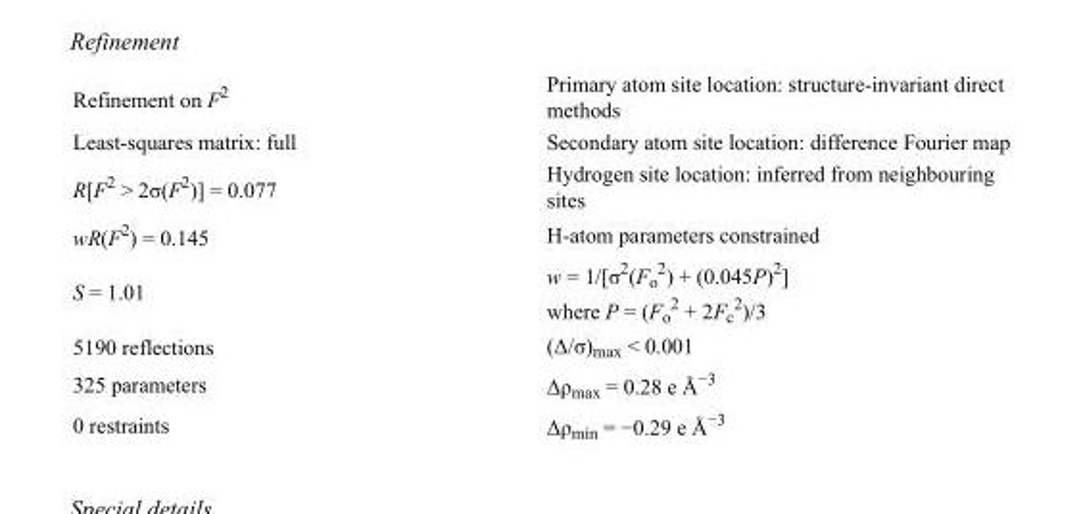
<table><tbody><tr><td>Refinement on F<sup>2</sup></td><td>Primary atom site location: structure-invariant direct methods</td></tr><tr><td>Least-squares matrix: full</td><td>Secondary atom site location: difference Fourier map</td></tr><tr><td>R[F<sup>2</sup> &gt; 2σ(F<sup>2</sup>)] = 0.077</td><td>Hydrogen site location: inferred from neighbouring sites</td></tr><tr><td>wR(F<sup>2</sup>) = 0.145</td><td>H-atom parameters constrained</td></tr><tr><td>S = 1.01</td><td>w = 1/[σ<sup>2</sup>(F<sub>o</sub> <sup>2</sup>) + (0.045P)<sup>2</sup>] where P = (F<sub>o</sub> <sup>2</sup> + 2F<sub>c</sub> <sup>2</sup>)/3</td></tr><tr><td>5190 reflections</td><td>(Δ/σ)<sub>max</sub> &lt; 0.001</td></tr><tr><td>325 parameters</td><td>Δρ<sub>max</sub> = 0.28 e Å<sup>−3</sup></td></tr><tr><td>0 restraints</td><td>Δρ<sub>min</sub> = −0.29 e Å<sup>−3</sup></td></tr></tbody></table>